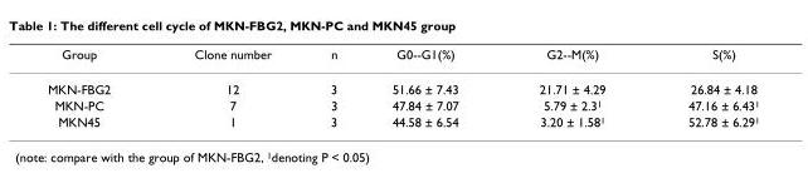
<table><thead><tr><td>Group</td><td>Clone number</td><td>n</td><td>G0--G1(%)</td><td>G2--M(%)</td><td>S(%)</td></tr></thead><tbody><tr><td>MKN-FBG2</td><td>12</td><td>3</td><td>51.66 ± 7.43</td><td>21.71 ± 4.29</td><td>26.84 ± 4.18</td></tr><tr><td>MKN-PC</td><td>7</td><td>3</td><td>47.84 ± 7.07</td><td>5.79 ± 2.3<sup>1</sup></td><td>47.16 ± 6.43<sup>1</sup></td></tr><tr><td>MKN45</td><td>1</td><td>3</td><td>44.58 ± 6.54</td><td>3.20 ± 1.58<sup>1</sup></td><td>52.78 ± 6.29<sup>1</sup></td></tr></tbody></table>